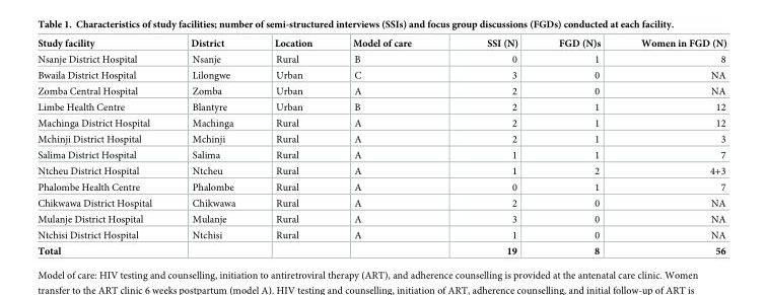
<table><thead><tr><td>Study facility</td><td>District</td><td>Location</td><td>Model of care</td><td>SSI (N)</td><td>FGD (N)s</td><td>Women in FGD (N)</td></tr></thead><tbody><tr><td>Nsanje District Hospital</td><td>Nsanje</td><td>Rural</td><td>B</td><td>0</td><td>1</td><td>8</td></tr><tr><td>Bwaila District Hospital</td><td>Lilongwe</td><td>Urban</td><td>C</td><td>3</td><td>0</td><td>NA</td></tr><tr><td>Zomba Central Hospital</td><td>Zomba</td><td>Urban</td><td>A</td><td>2</td><td>0</td><td>NA</td></tr><tr><td>Limbe Health Centre</td><td>Blantyre</td><td>Urban</td><td>B</td><td>2</td><td>1</td><td>12</td></tr><tr><td>Machinga District Hospital</td><td>Machinga</td><td>Rural</td><td>A</td><td>2</td><td>1</td><td>12</td></tr><tr><td>Mchinji District Hospital</td><td>Mchinji</td><td>Rural</td><td>A</td><td>2</td><td>1</td><td>3</td></tr><tr><td>Salima District Hospital</td><td>Salima</td><td>Rural</td><td>A</td><td>1</td><td>1</td><td>7</td></tr><tr><td>Ntcheu District Hospital</td><td>Ntcheu</td><td>Rural</td><td>A</td><td>1</td><td>2</td><td>4+3</td></tr><tr><td>Phalombe Health Centre</td><td>Phalombe</td><td>Rural</td><td>A</td><td>0</td><td>1</td><td>7</td></tr><tr><td>Chikwawa District Hospital</td><td>Chikwawa</td><td>Rural</td><td>A</td><td>2</td><td>0</td><td>NA</td></tr><tr><td>Mulanje District Hospital</td><td>Mulanje</td><td>Rural</td><td>A</td><td>3</td><td>0</td><td>NA</td></tr><tr><td>Ntchisi District Hospital</td><td>Ntchisi</td><td>Rural</td><td>A</td><td>1</td><td>0</td><td>NA</td></tr><tr><td>Total</td><td></td><td></td><td></td><td>19</td><td>8</td><td>56</td></tr></tbody></table>